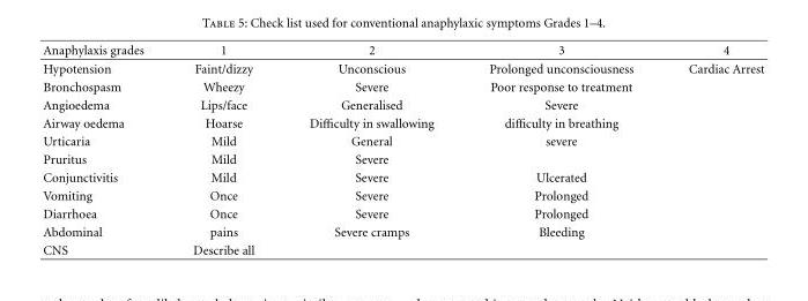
<table><thead><tr><td>Anaphylaxis grades</td><td>1</td><td>2</td><td>3</td><td>4</td></tr></thead><tbody><tr><td>Hypotension</td><td>Faint/dizzy</td><td>Unconscious</td><td>Prolonged unconsciousness</td><td>Cardiac Arrest</td></tr><tr><td>Bronchospasm</td><td>Wheezy</td><td>Severe</td><td>Poor response to treatment</td><td></td></tr><tr><td>Angioedema</td><td>Lips/face</td><td>Generalised</td><td>Severe</td><td></td></tr><tr><td>Airway oedema</td><td>Hoarse</td><td>Difficulty in swallowing</td><td>difficulty in breathing</td><td></td></tr><tr><td>Urticaria</td><td>Mild</td><td>General</td><td>severe</td><td></td></tr><tr><td>Pruritus</td><td>Mild</td><td>Severe</td><td></td><td></td></tr><tr><td>Conjunctivitis</td><td>Mild</td><td>Severe</td><td>Ulcerated</td><td></td></tr><tr><td>Vomiting</td><td>Once</td><td>Severe</td><td>Prolonged</td><td></td></tr><tr><td>Diarrhoea</td><td>Once</td><td>Severe</td><td>Prolonged</td><td></td></tr><tr><td>Abdominal</td><td>pains</td><td>Severe cramps</td><td>Bleeding</td><td></td></tr><tr><td>CNS</td><td>Describe all</td><td></td><td></td><td></td></tr></tbody></table>